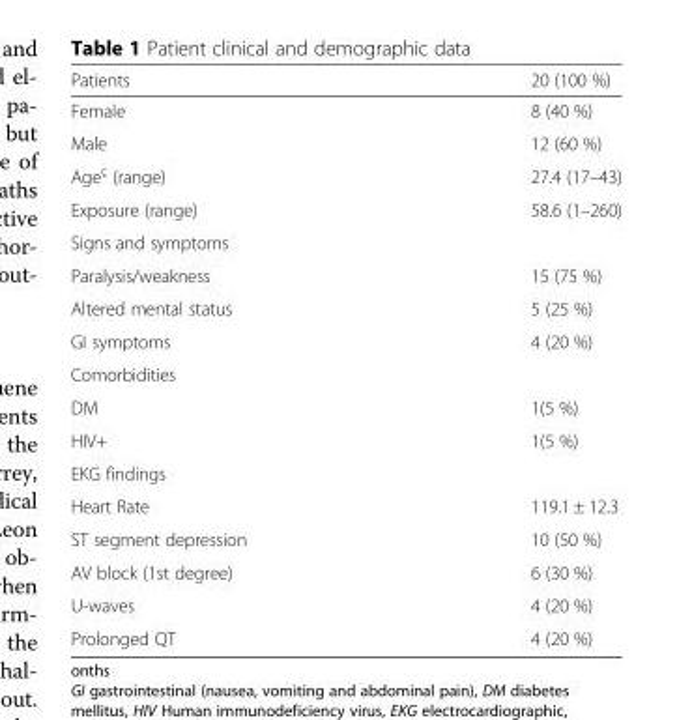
<table><thead><tr><td>Patients</td><td>20 (100 %)</td></tr></thead><tbody><tr><td>Female</td><td>8 (40 %)</td></tr><tr><td>Male</td><td>12 (60 %)</td></tr><tr><td>Age<sup>ç</sup> (range)</td><td>27.4 (17–43)</td></tr><tr><td>Exposure (range)</td><td>58.6 (1–260)</td></tr><tr><td colspan="2">Signs and symptoms</td></tr><tr><td>Paralysis/weakness</td><td>15 (75 %)</td></tr><tr><td>Altered mental status</td><td>5 (25 %)</td></tr><tr><td>GI symptoms</td><td>4 (20 %)</td></tr><tr><td colspan="2">Comorbidities</td></tr><tr><td>DM</td><td>1(5 %)</td></tr><tr><td>HIV+</td><td>1(5 %)</td></tr><tr><td colspan="2">EKG findings</td></tr><tr><td>Heart Rate</td><td>119.1 ± 12.3</td></tr><tr><td>ST segment depression</td><td>10 (50 %)</td></tr><tr><td>AV block (1st degree)</td><td>6 (30 %)</td></tr><tr><td>U-waves</td><td>4 (20 %)</td></tr><tr><td>Prolonged QT</td><td>4 (20 %)</td></tr></tbody></table>